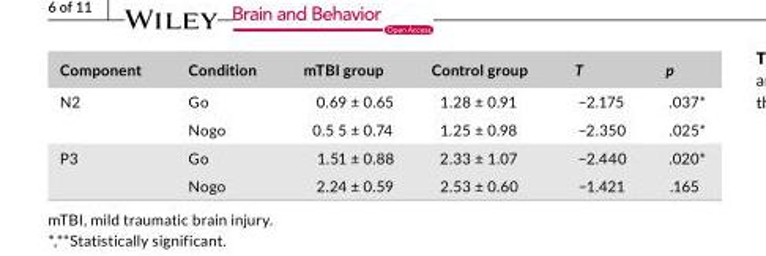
<table><thead><tr><td>Component</td><td>Condition</td><td>mTBI group</td><td>Control group</td><td>T</td><td>p</td></tr></thead><tbody><tr><td rowspan="2">N2</td><td>Go</td><td>0.69 ± 0.65</td><td>1.28 ± 0.91</td><td>−2.175</td><td>.037*</td></tr><tr><td>Nogo</td><td>0.5 5 ± 0.74</td><td>1.25 ± 0.98</td><td>−2.350</td><td>.025*</td></tr><tr><td rowspan="2">P3</td><td>Go</td><td>1.51 ± 0.88</td><td>2.33 ± 1.07</td><td>−2.440</td><td>.020*</td></tr><tr><td>Nogo</td><td>2.24 ± 0.59</td><td>2.53 ± 0.60</td><td>−1.421</td><td>.165</td></tr></tbody></table>